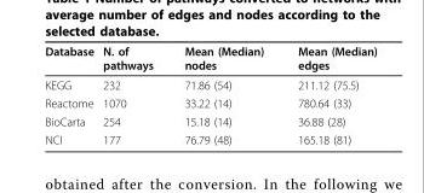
<table><thead><tr><td>Database</td><td>N. of pathways</td><td>Mean (Median) nodes</td><td>Mean (Median) edges</td></tr></thead><tbody><tr><td>KEGG</td><td>232</td><td>71.86 (54)</td><td>211.12 (75.5)</td></tr><tr><td>Reactome</td><td>1070</td><td>33.22 (14)</td><td>780.64 (33)</td></tr><tr><td>BioCarta</td><td>254</td><td>15.18 (14)</td><td>36.88 (28)</td></tr><tr><td>NCI</td><td>177</td><td>76.79 (48)</td><td>165.18 (81)</td></tr></tbody></table>